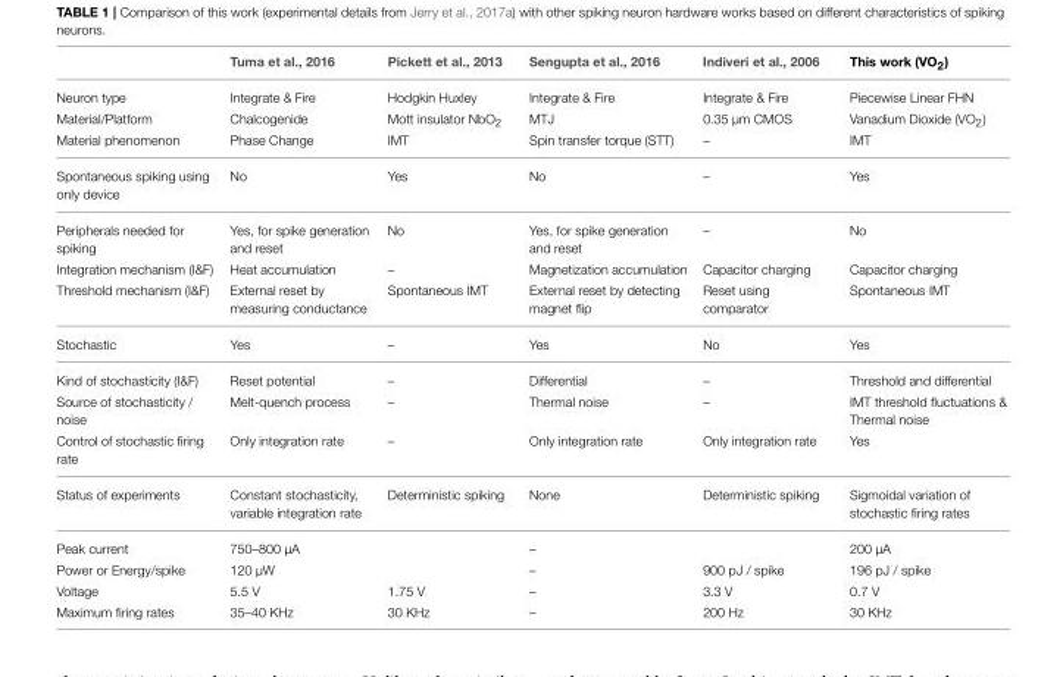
<table><thead><tr><td></td><td>Tuma et al., 2016</td><td>Pickett et al., 2013</td><td>Sengupta et al., 2016</td><td>Indiveri et al., 2006</td><td>This work (VO<sub>2</sub>)</td></tr></thead><tbody><tr><td>Neuron type</td><td>Integrate &amp; Fire</td><td>Hodgkin Huxley</td><td>Integrate &amp; Fire</td><td>Integrate &amp; Fire</td><td>Piecewise Linear FHN</td></tr><tr><td>Material/Platform</td><td>Chalcogenide</td><td>Mott insulator NbO<sub>2</sub></td><td>MTJ</td><td>0.35 µm CMOS</td><td>Vanadium Dioxide (VO<sub>2</sub>)</td></tr><tr><td>Material phenomenon</td><td>Phase Change</td><td>IMT</td><td>Spin transfer torque (STT)</td><td>–</td><td>IMT</td></tr><tr><td>Spontaneous spiking using only device</td><td>No</td><td>Yes</td><td>No</td><td>–</td><td>Yes</td></tr><tr><td>Peripherals needed for spiking</td><td>Yes, for spike generation and reset</td><td>No</td><td>Yes, for spike generation and reset</td><td>–</td><td>No</td></tr><tr><td>Integration mechanism (I&amp;F)</td><td>Heat accumulation</td><td>–</td><td>Magnetization accumulation</td><td>Capacitor charging</td><td>Capacitor charging</td></tr><tr><td>Threshold mechanism (I&amp;F)</td><td>External reset by measuring conductance</td><td>Spontaneous IMT</td><td>External reset by detecting magnet flip</td><td>Reset using comparator</td><td>Spontaneous IMT</td></tr><tr><td>Stochastic</td><td>Yes</td><td>–</td><td>Yes</td><td>No</td><td>Yes</td></tr><tr><td>Kind of stochasticity (I&amp;F)</td><td>Reset potential</td><td>–</td><td>Differential</td><td>–</td><td>Threshold and differential</td></tr><tr><td>Source of stochasticity / noise</td><td>Melt-quench process</td><td>–</td><td>Thermal noise</td><td>–</td><td>IMT threshold fluctuations &amp; Thermal noise</td></tr><tr><td>Control of stochastic firing rate</td><td>Only integration rate</td><td>–</td><td>Only integration rate</td><td>Only integration rate</td><td>Yes</td></tr><tr><td>Status of experiments</td><td>Constant stochasticity, variable integration rate</td><td>Deterministic spiking</td><td>None</td><td>Deterministic spiking</td><td>Sigmoidal variation of stochastic firing rates</td></tr><tr><td>Peak current</td><td>750–800 µA</td><td></td><td>–</td><td></td><td>200 µA</td></tr><tr><td>Power or Energy/spike</td><td>120 µW</td><td></td><td>–</td><td>900 pJ / spike</td><td>196 pJ / spike</td></tr><tr><td>Voltage</td><td>5.5 V</td><td>1.75 V</td><td>–</td><td>3.3 V</td><td>0.7 V</td></tr><tr><td>Maximum firing rates</td><td>35–40 KHz</td><td>30 KHz</td><td>–</td><td>200 Hz</td><td>30 KHz</td></tr></tbody></table>